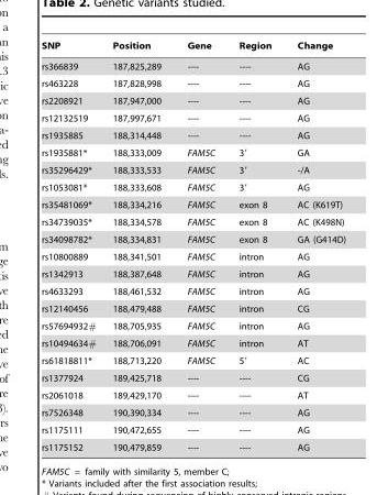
<table><thead><tr><td>SNP</td><td>Position</td><td>Gene</td><td>Region</td><td>Change</td></tr></thead><tbody><tr><td>rs366839</td><td>187,825,289</td><td>----</td><td>----</td><td>AG</td></tr><tr><td>rs463228</td><td>187,828,998</td><td>----</td><td>----</td><td>AG</td></tr><tr><td>rs2208921</td><td>187,947,000</td><td>----</td><td>----</td><td>AG</td></tr><tr><td>rs12132519</td><td>187,997,671</td><td>----</td><td>----</td><td>AG</td></tr><tr><td>rs1935885</td><td>188,314,448</td><td>----</td><td>----</td><td>AG</td></tr><tr><td>rs1935881*</td><td>188,333,009</td><td>FAM5C</td><td>3′</td><td>GA</td></tr><tr><td>rs35296429*</td><td>188,333,533</td><td>FAM5C</td><td>3′</td><td>-/A</td></tr><tr><td>rs1053081*</td><td>188,333,608</td><td>FAM5C</td><td>3′</td><td>AG</td></tr><tr><td>rs35481069*</td><td>188,334,216</td><td>FAM5C</td><td>exon 8</td><td>AC (K619T)</td></tr><tr><td>rs34739035*</td><td>188,334,578</td><td>FAM5C</td><td>exon 8</td><td>AC (K498N)</td></tr><tr><td>rs34098782*</td><td>188,334,831</td><td>FAM5C</td><td>exon 8</td><td>GA (G414D)</td></tr><tr><td>rs10800889</td><td>188,341,501</td><td>FAM5C</td><td>intron</td><td>AG</td></tr><tr><td>rs1342913</td><td>188,387,648</td><td>FAM5C</td><td>intron</td><td>AG</td></tr><tr><td>rs4633293</td><td>188,461,532</td><td>FAM5C</td><td>intron</td><td>AG</td></tr><tr><td>rs12140456</td><td>188,479,488</td><td>FAM5C</td><td>intron</td><td>CG</td></tr><tr><td>rs57694932#</td><td>188,705,935</td><td>FAM5C</td><td>intron</td><td>AG</td></tr><tr><td>rs10494634#</td><td>188,706,091</td><td>FAM5C</td><td>intron</td><td>AT</td></tr><tr><td>rs61818811*</td><td>188,713,220</td><td>FAM5C</td><td>5′</td><td>AC</td></tr><tr><td>rs1377924</td><td>189,425,718</td><td>----</td><td>----</td><td>CG</td></tr><tr><td>rs2061018</td><td>189,429,170</td><td>----</td><td>----</td><td>AT</td></tr><tr><td>rs7526348</td><td>190,390,334</td><td>----</td><td>----</td><td>AG</td></tr><tr><td>rs1175111</td><td>190,472,655</td><td>----</td><td>----</td><td>AG</td></tr><tr><td>rs1175152</td><td>190,479,859</td><td>----</td><td>----</td><td>AG</td></tr></tbody></table>